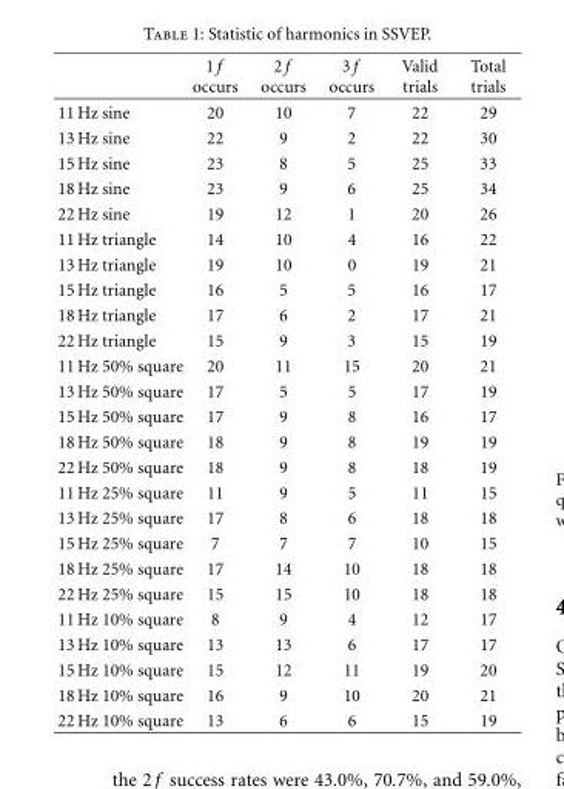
<table><thead><tr><td></td><td>1 f occurs</td><td>2 f occurs</td><td>3 f occurs</td><td>Valid trials</td><td>Total trials</td></tr></thead><tbody><tr><td>11 Hz sine</td><td>20</td><td>10</td><td>7</td><td>22</td><td>29</td></tr><tr><td>13 Hz sine</td><td>22</td><td>9</td><td>2</td><td>22</td><td>30</td></tr><tr><td>15 Hz sine</td><td>23</td><td>8</td><td>5</td><td>25</td><td>33</td></tr><tr><td>18 Hz sine</td><td>23</td><td>9</td><td>6</td><td>25</td><td>34</td></tr><tr><td>22 Hz sine</td><td>19</td><td>12</td><td>1</td><td>20</td><td>26</td></tr><tr><td>11 Hz triangle</td><td>14</td><td>10</td><td>4</td><td>16</td><td>22</td></tr><tr><td>13 Hz triangle</td><td>19</td><td>10</td><td>0</td><td>19</td><td>21</td></tr><tr><td>15 Hz triangle</td><td>16</td><td>5</td><td>5</td><td>16</td><td>17</td></tr><tr><td>18 Hz triangle</td><td>17</td><td>6</td><td>2</td><td>17</td><td>21</td></tr><tr><td>22 Hz triangle</td><td>15</td><td>9</td><td>3</td><td>15</td><td>19</td></tr><tr><td>11 Hz 50% square</td><td>20</td><td>11</td><td>15</td><td>20</td><td>21</td></tr><tr><td>13 Hz 50% square</td><td>17</td><td>5</td><td>5</td><td>17</td><td>19</td></tr><tr><td>15 Hz 50% square</td><td>17</td><td>9</td><td>8</td><td>16</td><td>17</td></tr><tr><td>18 Hz 50% square</td><td>18</td><td>9</td><td>8</td><td>19</td><td>19</td></tr><tr><td>22 Hz 50% square</td><td>18</td><td>9</td><td>8</td><td>18</td><td>19</td></tr><tr><td>11 Hz 25% square</td><td>11</td><td>9</td><td>5</td><td>11</td><td>15</td></tr><tr><td>13 Hz 25% square</td><td>17</td><td>8</td><td>6</td><td>18</td><td>18</td></tr><tr><td>15 Hz 25% square</td><td>7</td><td>7</td><td>7</td><td>10</td><td>15</td></tr><tr><td>18 Hz 25% square</td><td>17</td><td>14</td><td>10</td><td>18</td><td>18</td></tr><tr><td>22 Hz 25% square</td><td>15</td><td>15</td><td>10</td><td>18</td><td>18</td></tr><tr><td>11 Hz 10% square</td><td>8</td><td>9</td><td>4</td><td>12</td><td>17</td></tr><tr><td>13 Hz 10% square</td><td>13</td><td>13</td><td>6</td><td>17</td><td>17</td></tr><tr><td>15 Hz 10% square</td><td>15</td><td>12</td><td>11</td><td>19</td><td>20</td></tr><tr><td>18 Hz 10% square</td><td>16</td><td>9</td><td>10</td><td>20</td><td>21</td></tr><tr><td>22 Hz 10% square</td><td>13</td><td>6</td><td>6</td><td>15</td><td>19</td></tr></tbody></table>